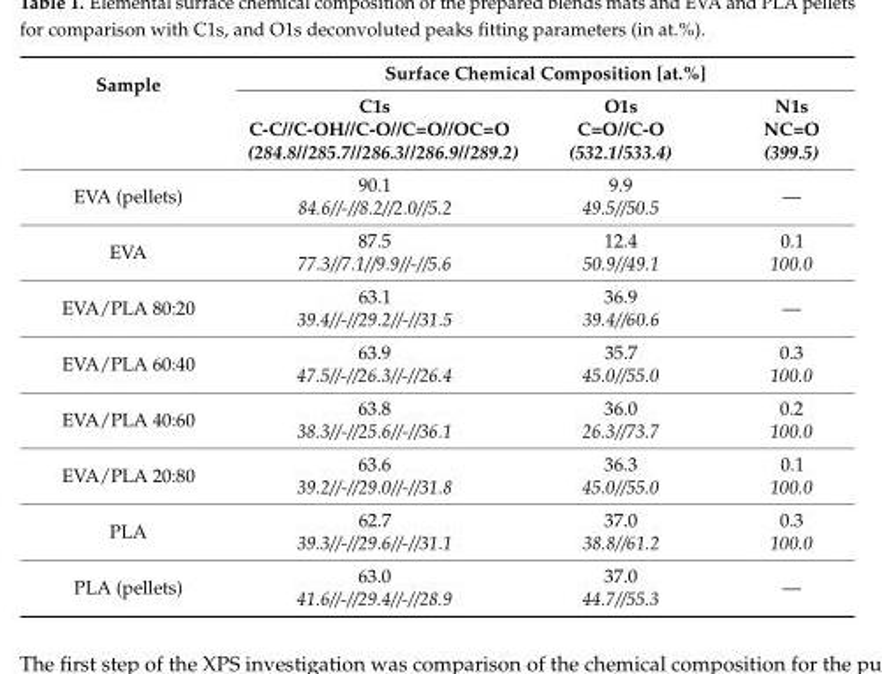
<table><thead><tr><td rowspan="2">Sample</td><td colspan="3">Surface Chemical Composition [at.%]</td></tr><tr><td>C1s C-C//C-OH//C-O//C=O//OC=O (284.8//285.7//286.3//286.9//289.2)</td><td>O1s C=O//C-O (532.1/533.4)</td><td>N1s NC=O (399.5)</td></tr></thead><tbody><tr><td>EVA (pellets)</td><td>90.1 84.6//-//8.2//2.0//5.2</td><td>9.9 49.5//50.5</td><td>—</td></tr><tr><td>EVA</td><td>87.5 77.3//7.1//9.9//-//5.6</td><td>12.4 50.9//49.1</td><td>0.1 100.0</td></tr><tr><td>EVA/PLA 80:20</td><td>63.1 39.4//-//29.2//-//31.5</td><td>36.9 39.4//60.6</td><td>—</td></tr><tr><td>EVA/PLA 60:40</td><td>63.9 47.5//-//26.3//-//26.4</td><td>35.7 45.0//55.0</td><td>0.3 100.0</td></tr><tr><td>EVA/PLA 40:60</td><td>63.8 38.3//-//25.6//-//36.1</td><td>36.0 26.3//73.7</td><td>0.2 100.0</td></tr><tr><td>EVA/PLA 20:80</td><td>63.6 39.2//-//29.0//-//31.8</td><td>36.3 45.0//55.0</td><td>0.1 100.0</td></tr><tr><td>PLA</td><td>62.7 39.3//-//29.6//-//31.1</td><td>37.0 38.8//61.2</td><td>0.3 100.0</td></tr><tr><td>PLA (pellets)</td><td>63.0 41.6//-//29.4//-//28.9</td><td>37.0 44.7//55.3</td><td>—</td></tr></tbody></table>